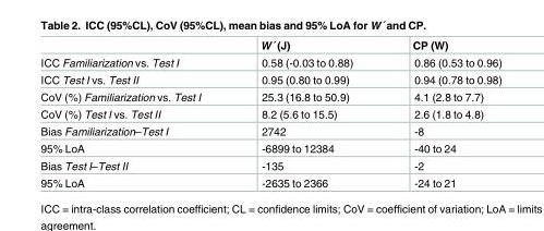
<table><thead><tr><td></td><td>W´ (J)</td><td>CP (W)</td></tr></thead><tbody><tr><td>ICC Familiarization vs. Test I</td><td>0.58 (-0.03 to 0.88)</td><td>0.86 (0.53 to 0.96)</td></tr><tr><td>ICC Test I vs. Test II</td><td>0.95 (0.80 to 0.99)</td><td>0.94 (0.78 to 0.98)</td></tr><tr><td>CoV (%) Familiarization vs. Test I</td><td>25.3 (16.8 to 50.9)</td><td>4.1 (2.8 to 7.7)</td></tr><tr><td>CoV (%) Test I vs. Test II</td><td>8.2 (5.6 to 15.5)</td><td>2.6 (1.8 to 4.8)</td></tr><tr><td>Bias Familiarization–Test I</td><td>2742</td><td>-8</td></tr><tr><td>95% LoA</td><td>-6899 to 12384</td><td>-40 to 24</td></tr><tr><td>Bias Test I–Test II</td><td>-135</td><td>-2</td></tr><tr><td>95% LoA</td><td>-2635 to 2366</td><td>-24 to 21</td></tr></tbody></table>